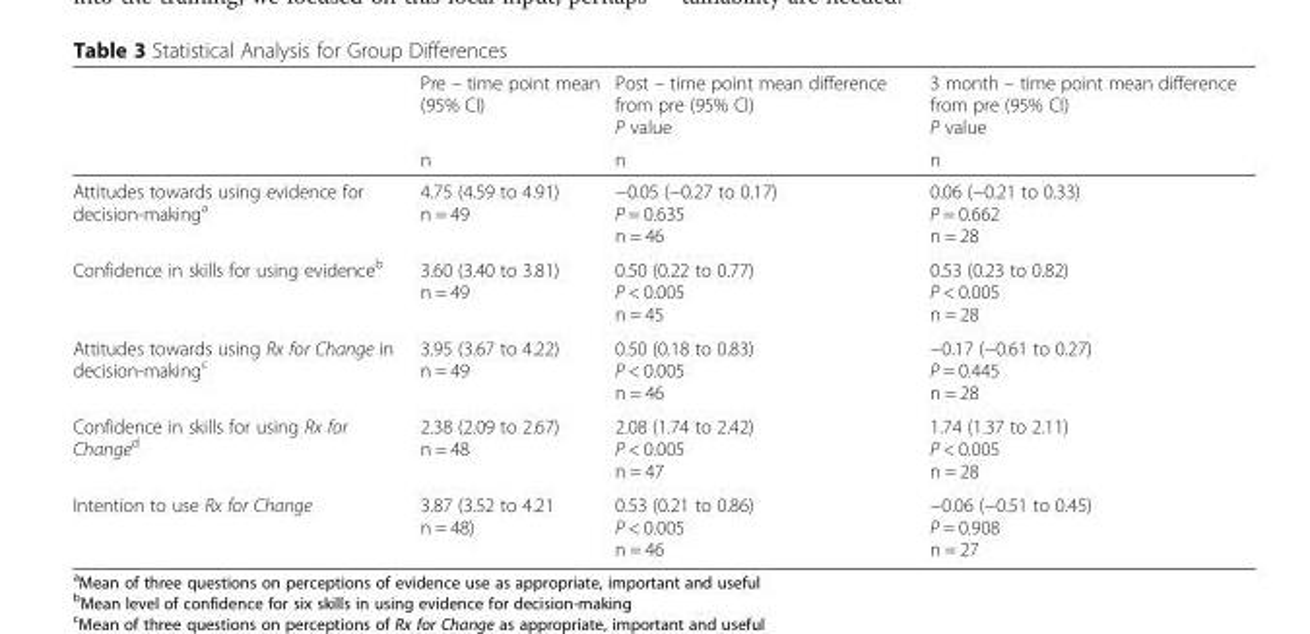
<table><thead><tr><td rowspan="2"></td><td rowspan="2">Pre – time point mean (95% CI) n</td><td rowspan="2">Post – time point mean difference from pre (95% CI) P value n</td><td rowspan="2">3 month – time point mean difference from pre (95% CI) P value n</td></tr><tr></tr></thead><tbody><tr><td>Attitudes towards using evidence for decision-making<sup>a</sup></td><td>4.75 (4.59 to 4.91) n = 49</td><td>−0.05 (−0.27 to 0.17) P = 0.635 n = 46</td><td>0.06 (−0.21 to 0.33) P = 0.662 n = 28</td></tr><tr><td>Confidence in skills for using evidence<sup>b</sup></td><td>3.60 (3.40 to 3.81) n = 49</td><td>0.50 (0.22 to 0.77) P &lt; 0.005 n = 45</td><td>0.53 (0.23 to 0.82) P &lt; 0.005 n = 28</td></tr><tr><td>Attitudes towards using Rx for Change in decision-making<sup>c</sup></td><td>3.95 (3.67 to 4.22) n = 49</td><td>0.50 (0.18 to 0.83) P &lt; 0.005 n = 46</td><td>−0.17 (−0.61 to 0.27) P = 0.445 n = 28</td></tr><tr><td>Confidence in skills for using Rx for Change<sup>d</sup></td><td>2.38 (2.09 to 2.67) n = 48</td><td>2.08 (1.74 to 2.42) P &lt; 0.005 n = 47</td><td>1.74 (1.37 to 2.11) P &lt; 0.005 n = 28</td></tr><tr><td>Intention to use Rx for Change</td><td>3.87 (3.52 to 4.21 n = 48)</td><td>0.53 (0.21 to 0.86) P &lt; 0.005 n = 46</td><td>−0.06 (−0.51 to 0.45) P = 0.908 n = 27</td></tr></tbody></table>